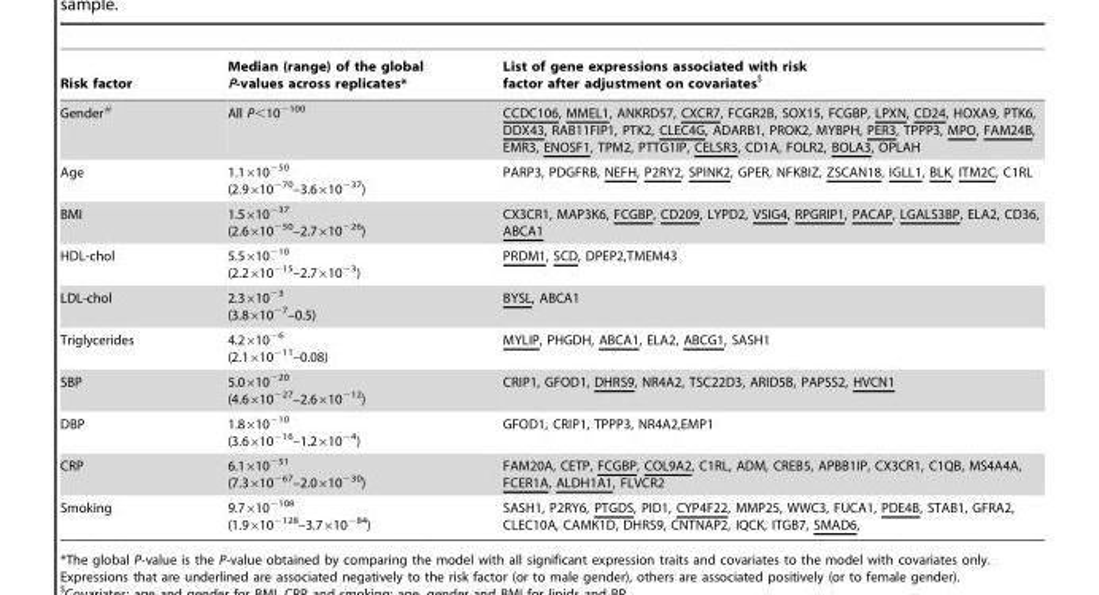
<table><thead><tr><td>Risk factor</td><td>Median (range) of the global P-values across replicates*</td><td>List of gene expressions associated with risk factor after adjustment on covariates$</td></tr></thead><tbody><tr><td>Gender#</td><td>All P&lt;10<sup>−100</sup></td><td>CCDC106, MMEL1, ANKRD57, CXCR7, FCGR2B, SOX15, FCGBP, LPXN, CD24, HOXA9, PTK6, DDX43, RAB11FIP1, PTK2, CLEC4G, ADARB1, PROK2, MYBPH, PER3, TPPP3, MPO, FAM24B, EMR3, ENOSF1, TPM2, PTTG1IP, CELSR3, CD1A, FOLR2, BOLA3, OPLAH</td></tr><tr><td>Age</td><td>1.1×10<sup>−50</sup> (2.9×10<sup>−70</sup>–3.6×10<sup>−37</sup>)</td><td>PARP3, PDGFRB, NEFH, P2RY2, SPINK2, GPER, NFKBIZ, ZSCAN18, IGLL1, BLK, ITM2C, C1RL</td></tr><tr><td>BMI</td><td>1.5×10<sup>−37</sup> (2.6×10<sup>−50</sup>–2.7×10<sup>−26</sup>)</td><td>CX3CR1, MAP3K6, FCGBP, CD209, LYPD2, VSIG4, RPGRIP1, PACAP, LGALS3BP, ELA2, CD36, ABCA1</td></tr><tr><td>HDL-chol</td><td>5.5×10<sup>−10</sup> (2.2×10<sup>−15</sup>–2.7×10<sup>−3</sup>)</td><td>PRDM1, SCD, DPEP2,TMEM43</td></tr><tr><td>LDL-chol</td><td>2.3×10<sup>−3</sup> (3.8×10<sup>−7</sup>–0.5)</td><td>BYSL, ABCA1</td></tr><tr><td>Triglycerides</td><td>4.2×10<sup>−6</sup> (2.1×10<sup>−11</sup>–0.08)</td><td>MYLIP, PHGDH, ABCA1, ELA2, ABCG1, SASH1</td></tr><tr><td>SBP</td><td>5.0×10<sup>−20</sup> (4.6×10<sup>−27</sup>–2.6×10<sup>−12</sup>)</td><td>CRIP1, GFOD1, DHRS9, NR4A2, TSC22D3, ARID5B, PAPSS2, HVCN1</td></tr><tr><td>DBP</td><td>1.8×10<sup>−10</sup> (3.6×10<sup>−16</sup>–1.2×10<sup>−4</sup>)</td><td>GFOD1, CRIP1, TPPP3, NR4A2,EMP1</td></tr><tr><td>CRP</td><td>6.1×10<sup>−51</sup> (7.3×10<sup>−67</sup>–2.0×10<sup>−30</sup>)</td><td>FAM20A, CETP, FCGBP, COL9A2, C1RL, ADM, CREB5, APBB1IP, CX3CR1, C1QB, MS4A4A, FCER1A, ALDH1A1, FLVCR2</td></tr><tr><td>Smoking</td><td>9.7×10<sup>−108</sup> (1.9×10<sup>−128</sup>–3.7×10<sup>−84</sup>)</td><td>SASH1, P2RY6, PTGDS, PID1, CYP4F22, MMP25, WWC3, FUCA1, PDE4B, STAB1, GFRA2, CLEC10A, CAMK1D, DHRS9, CNTNAP2, IQCK, ITGB7, SMAD6,</td></tr></tbody></table>